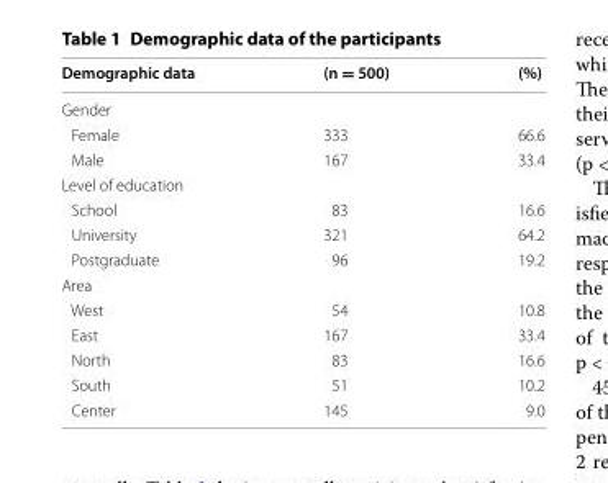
<table><thead><tr><td>Demographic data</td><td>(n = 500)</td><td>(%)</td></tr></thead><tbody><tr><td colspan="3">Gender</td></tr><tr><td>Female</td><td>333</td><td>66.6</td></tr><tr><td>Male</td><td>167</td><td>33.4</td></tr><tr><td colspan="3">Level of education</td></tr><tr><td>School</td><td>83</td><td>16.6</td></tr><tr><td>University</td><td>321</td><td>64.2</td></tr><tr><td>Postgraduate</td><td>96</td><td>19.2</td></tr><tr><td colspan="3">Area</td></tr><tr><td>West</td><td>54</td><td>10.8</td></tr><tr><td>East</td><td>167</td><td>33.4</td></tr><tr><td>North</td><td>83</td><td>16.6</td></tr><tr><td>South</td><td>51</td><td>10.2</td></tr><tr><td>Center</td><td>145</td><td>9.0</td></tr></tbody></table>